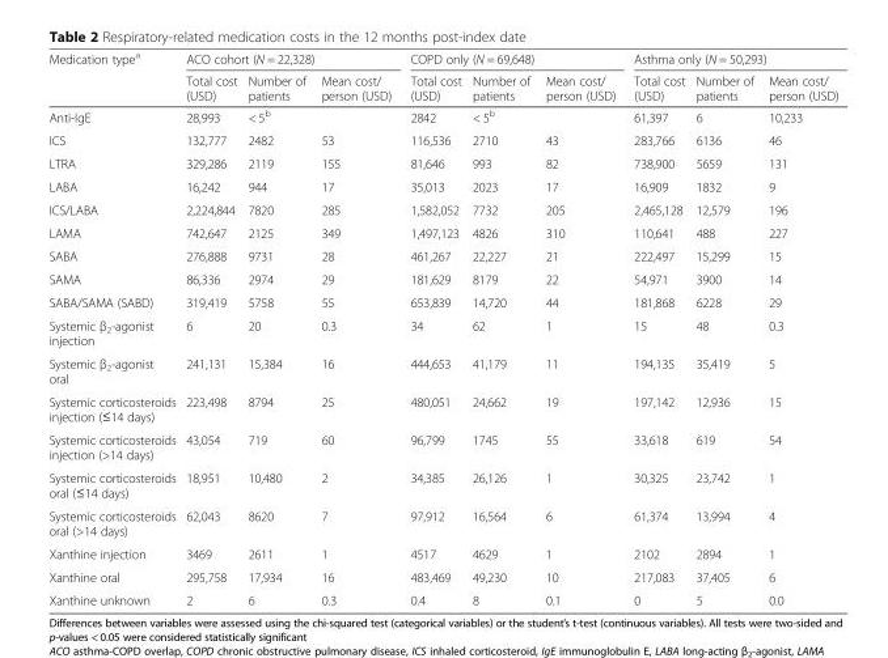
<table><thead><tr><td rowspan="2">Medication type<sup>a</sup></td><td colspan="3">ACO cohort (N = 22,328)</td><td colspan="3">COPD only (N = 69,648)</td><td colspan="3">Asthma only (N = 50,293)</td></tr><tr><td>Total cost (USD)</td><td>Number of patients</td><td>Mean cost/ person (USD)</td><td>Total cost (USD)</td><td>Number of patients</td><td>Mean cost/ person (USD)</td><td>Total cost (USD)</td><td>Number of patients</td><td>Mean cost/ person (USD)</td></tr></thead><tbody><tr><td>Anti-IgE</td><td>28,993</td><td>&lt; 5<sup>b</sup></td><td></td><td>2842</td><td>&lt; 5<sup>b</sup></td><td></td><td>61,397</td><td>6</td><td>10,233</td></tr><tr><td>ICS</td><td>132,777</td><td>2482</td><td>53</td><td>116,536</td><td>2710</td><td>43</td><td>283,766</td><td>6136</td><td>46</td></tr><tr><td>LTRA</td><td>329,286</td><td>2119</td><td>155</td><td>81,646</td><td>993</td><td>82</td><td>738,900</td><td>5659</td><td>131</td></tr><tr><td>LABA</td><td>16,242</td><td>944</td><td>17</td><td>35,013</td><td>2023</td><td>17</td><td>16,909</td><td>1832</td><td>9</td></tr><tr><td>ICS/LABA</td><td>2,224,844</td><td>7820</td><td>285</td><td>1,582,052</td><td>7732</td><td>205</td><td>2,465,128</td><td>12,579</td><td>196</td></tr><tr><td>LAMA</td><td>742,647</td><td>2125</td><td>349</td><td>1,497,123</td><td>4826</td><td>310</td><td>110,641</td><td>488</td><td>227</td></tr><tr><td>SABA</td><td>276,888</td><td>9731</td><td>28</td><td>461,267</td><td>22,227</td><td>21</td><td>222,497</td><td>15,299</td><td>15</td></tr><tr><td>SAMA</td><td>86,336</td><td>2974</td><td>29</td><td>181,629</td><td>8179</td><td>22</td><td>54,971</td><td>3900</td><td>14</td></tr><tr><td>SABA/SAMA (SABD)</td><td>319,419</td><td>5758</td><td>55</td><td>653,839</td><td>14,720</td><td>44</td><td>181,868</td><td>6228</td><td>29</td></tr><tr><td>Systemic β<sub>2</sub>-agonist injection</td><td>6</td><td>20</td><td>0.3</td><td>34</td><td>62</td><td>1</td><td>15</td><td>48</td><td>0.3</td></tr><tr><td>Systemic β<sub>2</sub>-agonist oral</td><td>241,131</td><td>15,384</td><td>16</td><td>444,653</td><td>41,179</td><td>11</td><td>194,135</td><td>35,419</td><td>5</td></tr><tr><td>Systemic corticosteroids injection (≤14 days)</td><td>223,498</td><td>8794</td><td>25</td><td>480,051</td><td>24,662</td><td>19</td><td>197,142</td><td>12,936</td><td>15</td></tr><tr><td>Systemic corticosteroids injection (&gt;14 days)</td><td>43,054</td><td>719</td><td>60</td><td>96,799</td><td>1745</td><td>55</td><td>33,618</td><td>619</td><td>54</td></tr><tr><td>Systemic corticosteroids oral (≤14 days)</td><td>18,951</td><td>10,480</td><td>2</td><td>34,385</td><td>26,126</td><td>1</td><td>30,325</td><td>23,742</td><td>1</td></tr><tr><td>Systemic corticosteroids oral (&gt;14 days)</td><td>62,043</td><td>8620</td><td>7</td><td>97,912</td><td>16,564</td><td>6</td><td>61,374</td><td>13,994</td><td>4</td></tr><tr><td>Xanthine injection</td><td>3469</td><td>2611</td><td>1</td><td>4517</td><td>4629</td><td>1</td><td>2102</td><td>2894</td><td>1</td></tr><tr><td>Xanthine oral</td><td>295,758</td><td>17,934</td><td>16</td><td>483,469</td><td>49,230</td><td>10</td><td>217,083</td><td>37,405</td><td>6</td></tr><tr><td>Xanthine unknown</td><td>2</td><td>6</td><td>0.3</td><td>0.4</td><td>8</td><td>0.1</td><td>0</td><td>5</td><td>0.0</td></tr></tbody></table>